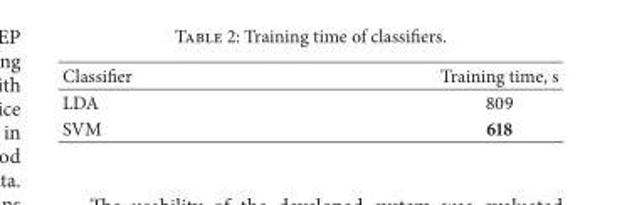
<table><thead><tr><td>Classifier</td><td>Training time, s</td></tr></thead><tbody><tr><td>LDA</td><td>809</td></tr><tr><td>SVM</td><td>618</td></tr></tbody></table>